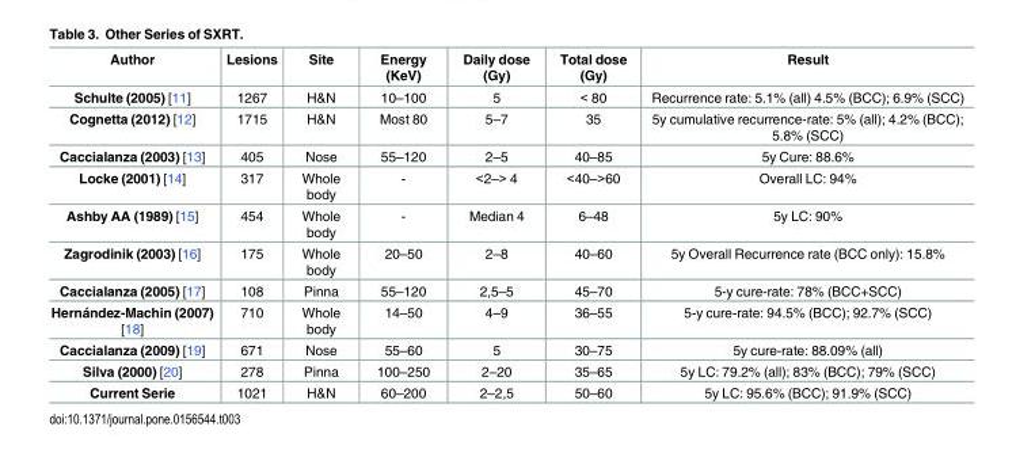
<table><thead><tr><td>Author</td><td>Lesions</td><td>Site</td><td>Energy (KeV)</td><td>Daily dose (Gy)</td><td>Total dose (Gy)</td><td>Result</td></tr></thead><tbody><tr><td>Schulte (2005) [11]</td><td>1267</td><td>H&amp;N</td><td>10–100</td><td>5</td><td>&lt; 80</td><td>Recurrence rate: 5.1% (all) 4.5% (BCC); 6.9% (SCC)</td></tr><tr><td>Cognetta (2012) [12]</td><td>1715</td><td>H&amp;N</td><td>Most 80</td><td>5–7</td><td>35</td><td>5y cumulative recurrence-rate: 5% (all); 4.2% (BCC); 5.8% (SCC)</td></tr><tr><td>Caccialanza (2003) [13]</td><td>405</td><td>Nose</td><td>55–120</td><td>2–5</td><td>40–85</td><td>5y Cure: 88.6%</td></tr><tr><td>Locke (2001) [14]</td><td>317</td><td>Whole body</td><td>-</td><td>&lt;2–&gt; 4</td><td>&lt;40–&gt;60</td><td>Overall LC: 94%</td></tr><tr><td>Ashby AA (1989) [15]</td><td>454</td><td>Whole body</td><td>-</td><td>Median 4</td><td>6–48</td><td>5y LC: 90%</td></tr><tr><td>Zagrodinik (2003) [16]</td><td>175</td><td>Whole body</td><td>20–50</td><td>2–8</td><td>40–60</td><td>5y Overall Recurrence rate (BCC only): 15.8%</td></tr><tr><td>Caccialanza (2005) [17]</td><td>108</td><td>Pinna</td><td>55–120</td><td>2,5–5</td><td>45–70</td><td>5-y cure-rate: 78% (BCC+SCC)</td></tr><tr><td>Hernández-Machin (2007) [18]</td><td>710</td><td>Whole body</td><td>14–50</td><td>4–9</td><td>36–55</td><td>5-y cure-rate: 94.5% (BCC); 92.7% (SCC)</td></tr><tr><td>Caccialanza (2009) [19]</td><td>671</td><td>Nose</td><td>55–60</td><td>5</td><td>30–75</td><td>5y cure-rate: 88.09% (all)</td></tr><tr><td>Silva (2000) [20]</td><td>278</td><td>Pinna</td><td>100–250</td><td>2–20</td><td>35–65</td><td>5y LC: 79.2% (all); 83% (BCC); 79% (SCC)</td></tr><tr><td>Current Serie</td><td>1021</td><td>H&amp;N</td><td>60–200</td><td>2–2,5</td><td>50–60</td><td>5y LC: 95.6% (BCC); 91.9% (SCC)</td></tr></tbody></table>